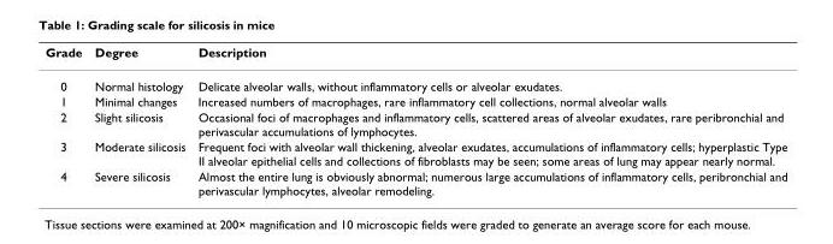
<table><thead><tr><td>Grade</td><td>Degree</td><td>Description</td></tr></thead><tbody><tr><td>0</td><td>Normal histology</td><td>Delicate alveolar walls, without inflammatory cells or alveolar exudates.</td></tr><tr><td>1</td><td>Minimal changes</td><td>Increased numbers of macrophages, rare inflammatory cell collections, normal alveolar walls</td></tr><tr><td>2</td><td>Slight silicosis</td><td>Occasional foci of macrophages and inflammatory cells, scattered areas of alveolar exudates, rare peribronchial and perivascular accumulations of lymphocytes.</td></tr><tr><td>3</td><td>Moderate silicosis</td><td>Frequent foci with alveolar wall thickening, alveolar exudates, accumulations of inflammatory cells; hyperplastic Type II alveolar epithelial cells and collections of fibroblasts may be seen; some areas of lung may appear nearly normal.</td></tr><tr><td>4</td><td>Severe silicosis</td><td>Almost the entire lung is obviously abnormal; numerous large accumulations of inflammatory cells, peribronchial and perivascular lymphocytes, alveolar remodeling.</td></tr></tbody></table>